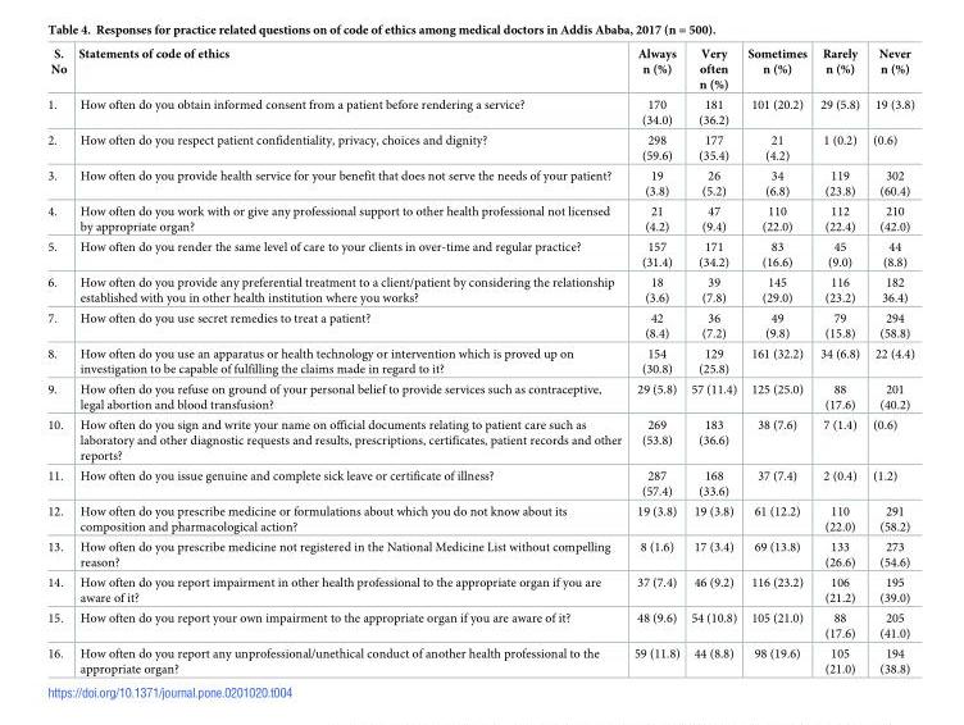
<table><thead><tr><td>S. No</td><td>Statements of code of ethics</td><td>Always n (%)</td><td>Very often n (%)</td><td>Sometimes n (%)</td><td>Rarely n (%)</td><td>Never n (%)</td></tr></thead><tbody><tr><td>1.</td><td>How often do you obtain informed consent from a patient before rendering a service?</td><td>170 (34.0)</td><td>181 (36.2)</td><td>101 (20.2)</td><td>29 (5.8)</td><td>19 (3.8)</td></tr><tr><td>2.</td><td>How often do you respect patient confidentiality, privacy, choices and dignity?</td><td>298 (59.6)</td><td>177 (35.4)</td><td>21 (4.2)</td><td>1 (0.2)</td><td>(0.6)</td></tr><tr><td>3.</td><td>How often do you provide health service for your benefit that does not serve the needs of your patient?</td><td>19 (3.8)</td><td>26 (5.2)</td><td>34 (6.8)</td><td>119 (23.8)</td><td>302 (60.4)</td></tr><tr><td>4.</td><td>How often do you work with or give any professional support to other health professional not licensed by appropriate organ?</td><td>21 (4.2)</td><td>47 (9.4)</td><td>110 (22.0)</td><td>112 (22.4)</td><td>210 (42.0)</td></tr><tr><td>5.</td><td>How often do you render the same level of care to your clients in over-time and regular practice?</td><td>157 (31.4)</td><td>171 (34.2)</td><td>83 (16.6)</td><td>45 (9.0)</td><td>44 (8.8)</td></tr><tr><td>6.</td><td>How often do you provide any preferential treatment to a client/patient by considering the relationship established with you in other health institution where you works?</td><td>18 (3.6)</td><td>39 (7.8)</td><td>145 (29.0)</td><td>116 (23.2)</td><td>182 36.4)</td></tr><tr><td>7.</td><td>How often do you use secret remedies to treat a patient?</td><td>42 (8.4)</td><td>36 (7.2)</td><td>49 (9.8)</td><td>79 (15.8)</td><td>294 (58.8)</td></tr><tr><td>8.</td><td>How often do you use an apparatus or health technology or intervention which is proved up on investigation to be capable of fulfilling the claims made in regard to it?</td><td>154 (30.8)</td><td>129 (25.8)</td><td>161 (32.2)</td><td>34 (6.8)</td><td>22 (4.4)</td></tr><tr><td>9.</td><td>How often do you refuse on ground of your personal belief to provide services such as contraceptive, legal abortion and blood transfusion?</td><td>29 (5.8)</td><td>57 (11.4)</td><td>125 (25.0)</td><td>88 (17.6)</td><td>201 (40.2)</td></tr><tr><td>10.</td><td>How often do you sign and write your name on official documents relating to patient care such as laboratory and other diagnostic requests and results, prescriptions, certificates, patient records and other reports?</td><td>269 (53.8)</td><td>183 (36.6)</td><td>38 (7.6)</td><td>7 (1.4)</td><td>(0.6)</td></tr><tr><td>11.</td><td>How often do you issue genuine and complete sick leave or certificate of illness?</td><td>287 (57.4)</td><td>168 (33.6)</td><td>37 (7.4)</td><td>2 (0.4)</td><td>(1.2)</td></tr><tr><td>12.</td><td>How often do you prescribe medicine or formulations about which you do not know about its composition and pharmacological action?</td><td>19 (3.8)</td><td>19 (3.8)</td><td>61 (12.2)</td><td>110 (22.0)</td><td>291 (58.2)</td></tr><tr><td>13.</td><td>How often do you prescribe medicine not registered in the National Medicine List without compelling reason?</td><td>8 (1.6)</td><td>17 (3.4)</td><td>69 (13.8)</td><td>133 (26.6)</td><td>273 (54.6)</td></tr><tr><td>14.</td><td>How often do you report impairment in other health professional to the appropriate organ if you are aware of it?</td><td>37 (7.4)</td><td>46 (9.2)</td><td>116 (23.2)</td><td>106 (21.2)</td><td>195 (39.0)</td></tr><tr><td>15.</td><td>How often do you report your own impairment to the appropriate organ if you are aware of it?</td><td>48 (9.6)</td><td>54 (10.8)</td><td>105 (21.0)</td><td>88 (17.6)</td><td>205 (41.0)</td></tr><tr><td>16.</td><td>How often do you report any unprofessional/unethical conduct of another health professional to the appropriate organ?</td><td>59 (11.8)</td><td>44 (8.8)</td><td>98 (19.6)</td><td>105 (21.0)</td><td>194 (38.8)</td></tr></tbody></table>